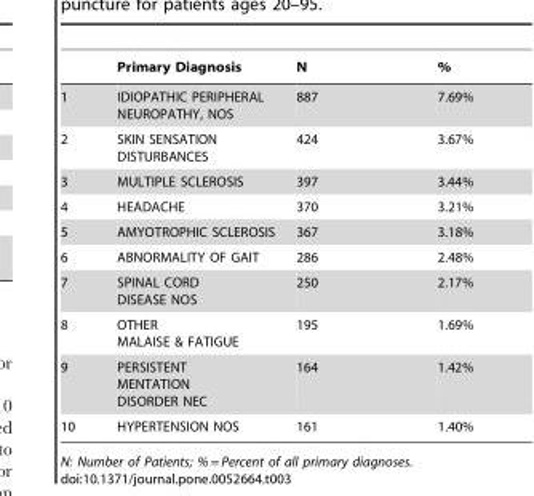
<table><thead><tr><td></td><td>Primary Diagnosis</td><td>N</td><td>%</td></tr></thead><tbody><tr><td>1</td><td>IDIOPATHIC PERIPHERAL NEUROPATHY, NOS</td><td>887</td><td>7.69%</td></tr><tr><td>2</td><td>SKIN SENSATION DISTURBANCES</td><td>424</td><td>3.67%</td></tr><tr><td>3</td><td>MULTIPLE SCLEROSIS</td><td>397</td><td>3.44%</td></tr><tr><td>4</td><td>HEADACHE</td><td>370</td><td>3.21%</td></tr><tr><td>5</td><td>AMYOTROPHIC SCLEROSIS</td><td>367</td><td>3.18%</td></tr><tr><td>6</td><td>ABNORMALITY OF GAIT</td><td>286</td><td>2.48%</td></tr><tr><td>7</td><td>SPINAL CORD DISEASE NOS</td><td>250</td><td>2.17%</td></tr><tr><td>8</td><td>OTHER MALAISE &amp; FATIGUE</td><td>195</td><td>1.69%</td></tr><tr><td>9</td><td>PERSISTENT MENTATION DISORDER NEC</td><td>164</td><td>1.42%</td></tr><tr><td>10</td><td>HYPERTENSION NOS</td><td>161</td><td>1.40%</td></tr></tbody></table>